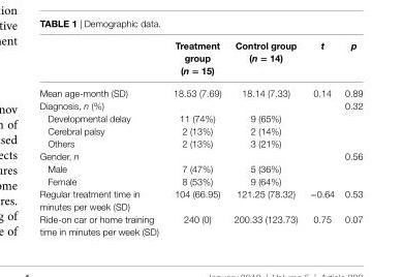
<table><thead><tr><td></td><td>Treatment group (n = 15)</td><td>Control group (n = 14)</td><td>t</td><td>p</td></tr></thead><tbody><tr><td>Mean age-month (SD)</td><td>18.53 (7.69)</td><td>18.14 (7.33)</td><td>0.14</td><td>0.89</td></tr><tr><td>Diagnosis, n (%)</td><td></td><td></td><td></td><td>0.32</td></tr><tr><td>Developmental delay</td><td>11 (74%)</td><td>9 (65%)</td><td></td><td></td></tr><tr><td>Cerebral palsy</td><td>2 (13%)</td><td>2 (14%)</td><td></td><td></td></tr><tr><td>Others</td><td>2 (13%)</td><td>3 (21%)</td><td></td><td></td></tr><tr><td>Gender, n</td><td></td><td></td><td></td><td>0.56</td></tr><tr><td>Male</td><td>7 (47%)</td><td>5 (36%)</td><td></td><td></td></tr><tr><td>Female</td><td>8 (53%)</td><td>9 (64%)</td><td></td><td></td></tr><tr><td>Regular treatment time in minutes per week (SD)</td><td>104 (66.95)</td><td>121.25 (78.32)</td><td>−0.64</td><td>0.53</td></tr><tr><td>Ride-on car or home training time in minutes per week (SD)</td><td>240 (0)</td><td>200.33 (123.73)</td><td>0.75</td><td>0.07</td></tr></tbody></table>